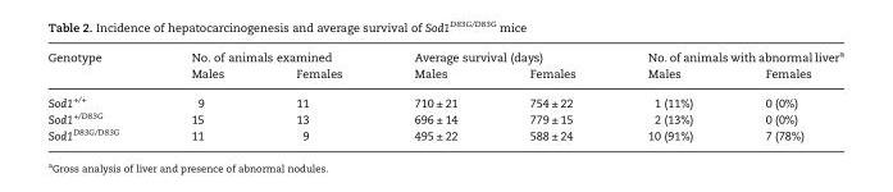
<table><thead><tr><td rowspan="2">Genotype</td><td colspan="2">No. of animals examined</td><td colspan="2">Average survival (days)</td><td colspan="2">No. of animals with abnormal liver<sup>a</sup></td></tr><tr><td>Males</td><td>Females</td><td>Males</td><td>Females</td><td>Males</td><td>Females</td></tr></thead><tbody><tr><td>Sod1<sup>+/+</sup></td><td>9</td><td>11</td><td>710 ± 21</td><td>754 ± 22</td><td>1 (11%)</td><td>0 (0%)</td></tr><tr><td>Sod1<sup>+/D83G</sup></td><td>15</td><td>13</td><td>696 ± 14</td><td>779 ± 15</td><td>2 (13%)</td><td>0 (0%)</td></tr><tr><td>Sod1<sup>D83G/D83G</sup></td><td>11</td><td>9</td><td>495 ± 22</td><td>588 ± 24</td><td>10 (91%)</td><td>7 (78%)</td></tr></tbody></table>